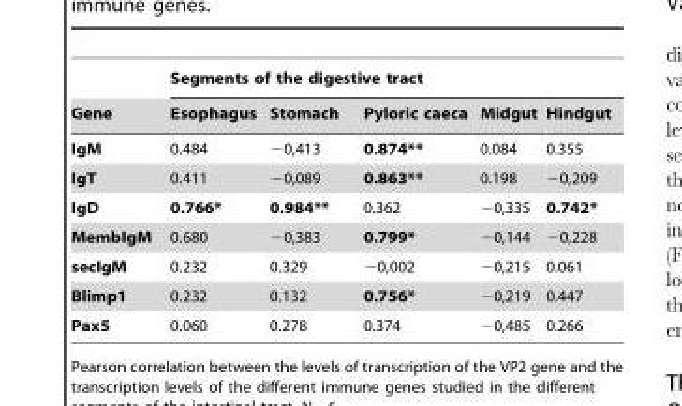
<table><thead><tr><td rowspan="2">Gene</td><td colspan="5">Segments of the digestive tract</td></tr><tr><td>Esophagus</td><td>Stomach</td><td>Pyloric caeca</td><td>Midgut</td><td>Hindgut</td></tr></thead><tbody><tr><td>IgM</td><td>0.484</td><td>−0,413</td><td>0.874**</td><td>0.084</td><td>0.355</td></tr><tr><td>IgT</td><td>0.411</td><td>−0,089</td><td>0.863**</td><td>0.198</td><td>−0,209</td></tr><tr><td>IgD</td><td>0.766*</td><td>0.984**</td><td>0.362</td><td>−0,335</td><td>0.742*</td></tr><tr><td>MembIgM</td><td>0.680</td><td>−0,383</td><td>0.799*</td><td>−0,144</td><td>−0,228</td></tr><tr><td>secIgM</td><td>0.232</td><td>0.329</td><td>−0,002</td><td>−0,215</td><td>0.061</td></tr><tr><td>Blimp1</td><td>0.232</td><td>0.132</td><td>0.756*</td><td>−0,219</td><td>0.447</td></tr><tr><td>Pax5</td><td>0.060</td><td>0.278</td><td>0.374</td><td>−0,485</td><td>0.266</td></tr></tbody></table>